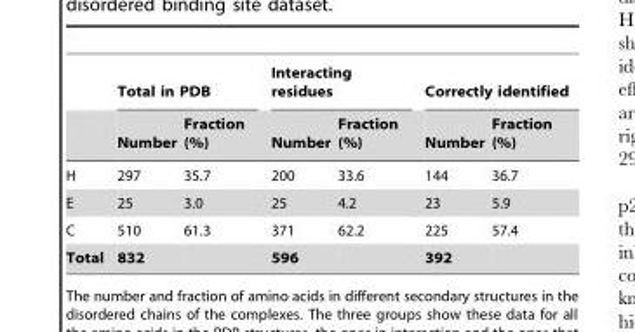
<table><thead><tr><td rowspan="2"></td><td colspan="2">Total in PDB</td><td colspan="2">Interacting residues</td><td colspan="2">Correctly identified</td></tr><tr><td>Number</td><td>Fraction (%)</td><td>Number</td><td>Fraction (%)</td><td>Number</td><td>Fraction (%)</td></tr></thead><tbody><tr><td>H</td><td>297</td><td>35.7</td><td>200</td><td>33.6</td><td>144</td><td>36.7</td></tr><tr><td>E</td><td>25</td><td>3.0</td><td>25</td><td>4.2</td><td>23</td><td>5.9</td></tr><tr><td>C</td><td>510</td><td>61.3</td><td>371</td><td>62.2</td><td>225</td><td>57.4</td></tr><tr><td>Total</td><td>832</td><td></td><td>596</td><td></td><td>392</td><td></td></tr></tbody></table>